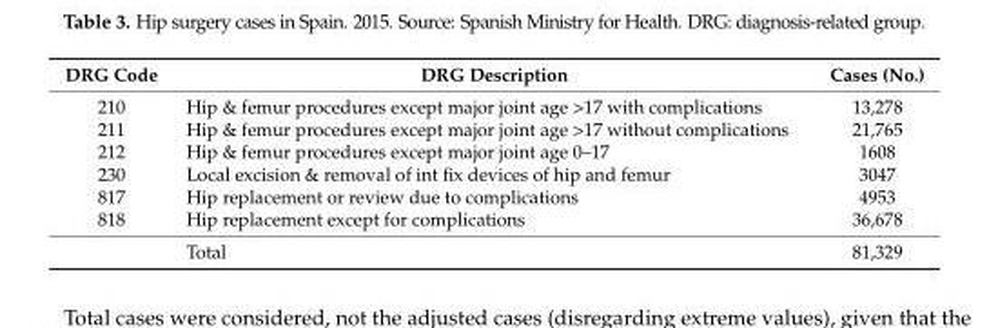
<table><thead><tr><td>DRG Code</td><td>DRG Description</td><td>Cases (No.)</td></tr></thead><tbody><tr><td>210</td><td>Hip &amp; femur procedures except major joint age &gt;17 with complications</td><td>13,278</td></tr><tr><td>211</td><td>Hip &amp; femur procedures except major joint age &gt;17 without complications</td><td>21,765</td></tr><tr><td>212</td><td>Hip &amp; femur procedures except major joint age 0–17</td><td>1608</td></tr><tr><td>230</td><td>Local excision &amp; removal of int fix devices of hip and femur</td><td>3047</td></tr><tr><td>817</td><td>Hip replacement or review due to complications</td><td>4953</td></tr><tr><td rowspan="2">818</td><td>Hip replacement except for complications</td><td>36,678</td></tr><tr><td>Total</td><td>81,329</td></tr></tbody></table>